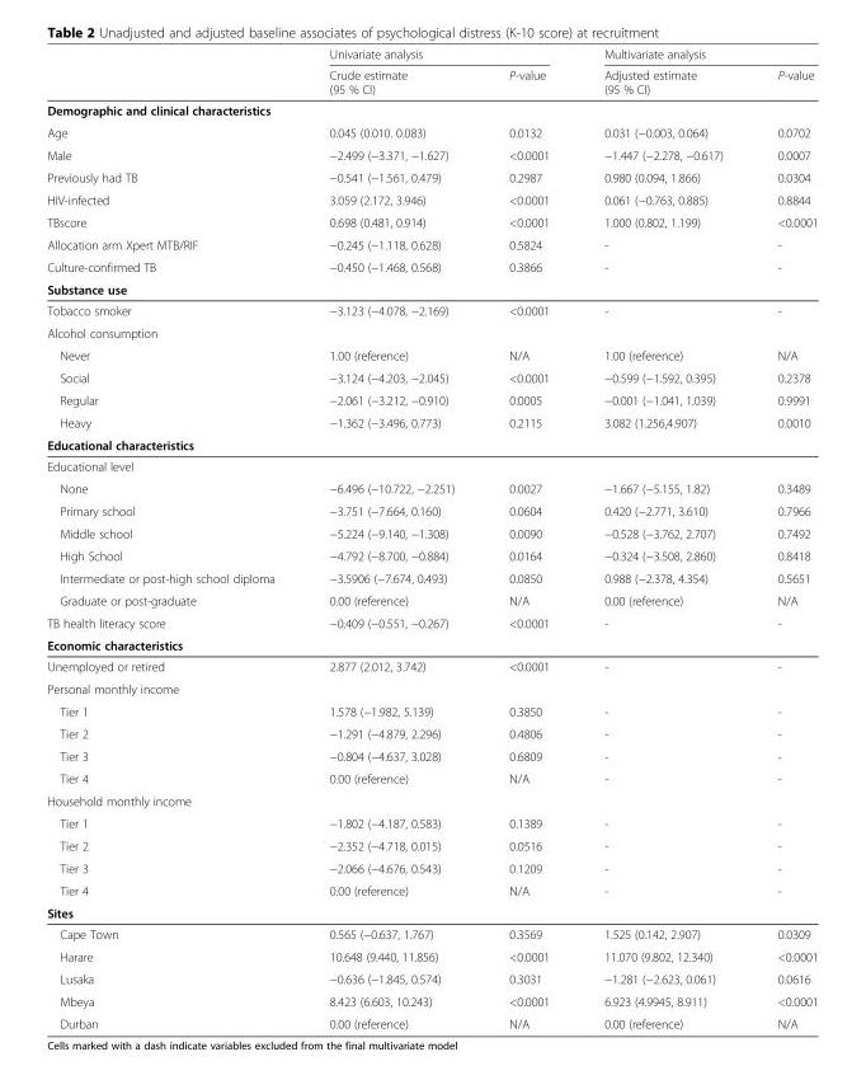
<table><thead><tr><td rowspan="2"></td><td colspan="2">Univariate analysis</td><td colspan="2">Multivariate analysis</td></tr><tr><td>Crude estimate (95 % CI)</td><td>P-value</td><td>Adjusted estimate (95 % CI)</td><td>P-value</td></tr></thead><tbody><tr><td colspan="5">Demographic and clinical characteristics</td></tr><tr><td>Age</td><td>0.045 (0.010. 0.083)</td><td>0.0132</td><td>0.031 (−0.003, 0.064)</td><td>0.0702</td></tr><tr><td>Male</td><td>−2.499 (−3.371, −1.627)</td><td>&lt;0.0001</td><td>−1.447 (−2.278, −0.617)</td><td>0.0007</td></tr><tr><td>Previously had TB</td><td>−0.541 (−1.561, 0.479)</td><td>0.2987</td><td>0.980 (0.094, 1.866)</td><td>0.0304</td></tr><tr><td>HIV-infected</td><td>3.059 (2.172, 3.946)</td><td>&lt;0.0001</td><td>0.061 (−0.763, 0.885)</td><td>0.8844</td></tr><tr><td>TBscore</td><td>0.698 (0.481, 0.914)</td><td>&lt;0.0001</td><td>1.000 (0.802, 1.199)</td><td>&lt;0.0001</td></tr><tr><td>Allocation arm Xpert MTB/RIF</td><td>−0.245 (−1.118, 0.628)</td><td>0.5824</td><td>-</td><td>-</td></tr><tr><td>Culture-confirmed TB</td><td>−0.450 (−1.468, 0.568)</td><td>0.3866</td><td>-</td><td>-</td></tr><tr><td colspan="5">Substance use</td></tr><tr><td>Tobacco smoker</td><td>−3.123 (−4.078, −2.169)</td><td>&lt;0.0001</td><td>-</td><td>-</td></tr><tr><td colspan="5">Alcohol consumption</td></tr><tr><td>Never</td><td>1.00 (reference)</td><td>N/A</td><td>1.00 (reference)</td><td>N/A</td></tr><tr><td>Social</td><td>−3.124 (−4.203, −2.045)</td><td>&lt;0.0001</td><td>−0.599 (−1.592, 0.395)</td><td>0.2378</td></tr><tr><td>Regular</td><td>−2.061 (−3.212, −0.910)</td><td>0.0005</td><td>−0.001 (−1.041, 1.039)</td><td>0.9991</td></tr><tr><td>Heavy</td><td>−1.362 (−3.496, 0.773)</td><td>0.2115</td><td>3.082 (1.256,4.907)</td><td>0.0010</td></tr><tr><td colspan="5">Educational characteristics</td></tr><tr><td colspan="5">Educational level</td></tr><tr><td>None</td><td>−6.496 (−10.722, −2.251)</td><td>0.0027</td><td>−1.667 (−5.155, 1.82)</td><td>0.3489</td></tr><tr><td>Primary school</td><td>−3.751 (−7.664, 0.160)</td><td>0.0604</td><td>0.420 (−2.771, 3.610)</td><td>0.7966</td></tr><tr><td>Middle school</td><td>−5.224 (−9.140, −1.308)</td><td>0.0090</td><td>−0.528 (−3.762, 2.707)</td><td>0.7492</td></tr><tr><td>High School</td><td>−4.792 (−8.700, −0.884)</td><td>0.0164</td><td>−0.324 (−3.508, 2.860)</td><td>0.8418</td></tr><tr><td>Intermediate or post-high school diploma</td><td>−3.5906 (−7.674, 0.493)</td><td>0.0850</td><td>0.988 (−2.378, 4.354)</td><td>0.5651</td></tr><tr><td>Graduate or post-graduate</td><td>0.00 (reference)</td><td>N/A</td><td>0.00 (reference)</td><td>N/A</td></tr><tr><td>TB health literacy score</td><td>−0.409 (−0.551, −0.267)</td><td>&lt;0.0001</td><td>-</td><td>-</td></tr><tr><td colspan="5">Economic characteristics</td></tr><tr><td>Unemployed or retired</td><td>2.877 (2.012, 3.742)</td><td>&lt;0.0001</td><td>-</td><td>-</td></tr><tr><td colspan="5">Personal monthly income</td></tr><tr><td>Tier 1</td><td>1.578 (−1.982, 5.139)</td><td>0.3850</td><td>-</td><td>-</td></tr><tr><td>Tier 2</td><td>−1.291 (−4.879, 2.296)</td><td>0.4806</td><td>-</td><td>-</td></tr><tr><td>Tier 3</td><td>−0.804 (−4.637, 3.028)</td><td>0.6809</td><td>-</td><td>-</td></tr><tr><td>Tier 4</td><td>0.00 (reference)</td><td>N/A</td><td>-</td><td>-</td></tr><tr><td colspan="5">Household monthly income</td></tr><tr><td>Tier 1</td><td>−1.802 (−4.187, 0.583)</td><td>0.1389</td><td>-</td><td>-</td></tr><tr><td>Tier 2</td><td>−2.352 (−4.718, 0.015)</td><td>0.0516</td><td>-</td><td>-</td></tr><tr><td>Tier 3</td><td>−2.066 (−4.676, 0.543)</td><td>0.1209</td><td>-</td><td>-</td></tr><tr><td>Tier 4</td><td>0.00 (reference)</td><td>N/A</td><td>-</td><td>-</td></tr><tr><td colspan="5">Sites</td></tr><tr><td>Cape Town</td><td>0.565 (−0.637, 1.767)</td><td>0.3569</td><td>1.525 (0.142, 2.907)</td><td>0.0309</td></tr><tr><td>Harare</td><td>10.648 (9.440, 11.856)</td><td>&lt;0.0001</td><td>11.070 (9.802, 12.340)</td><td>&lt;0.0001</td></tr><tr><td>Lusaka</td><td>−0.636 (−1.845, 0.574)</td><td>0.3031</td><td>−1.281 (−2.623, 0.061)</td><td>0.0616</td></tr><tr><td>Mbeya</td><td>8.423 (6.603, 10.243)</td><td>&lt;0.0001</td><td>6.923 (4.9945, 8.911)</td><td>&lt;0.0001</td></tr><tr><td>Durban</td><td>0.00 (reference)</td><td>N/A</td><td>0.00 (reference)</td><td>N/A</td></tr></tbody></table>